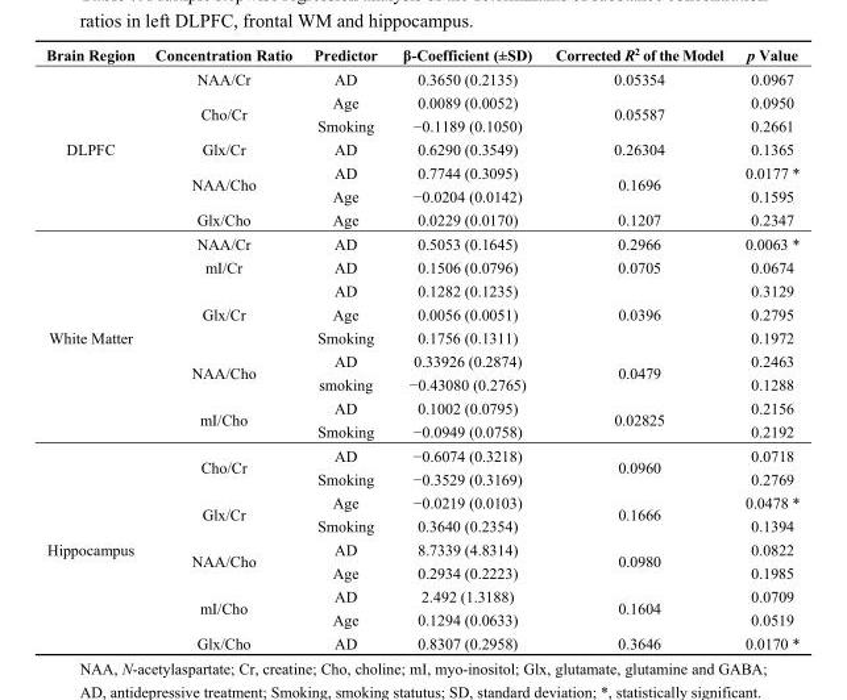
<table><thead><tr><td>Brain Region</td><td>Concentration Ratio</td><td>Predictor</td><td>β-Coefficient (±SD)</td><td>Corrected R<sup>2</sup> of the Model</td><td>p Value</td></tr></thead><tbody><tr><td rowspan="7">DLPFC</td><td>NAA/Cr</td><td>AD</td><td>0.3650 (0.2135)</td><td>0.05354</td><td>0.0967</td></tr><tr><td rowspan="2">Cho/Cr</td><td>Age</td><td>0.0089 (0.0052)</td><td rowspan="2">0.05587</td><td>0.0950</td></tr><tr><td>Smoking</td><td>−0.1189 (0.1050)</td><td>0.2661</td></tr><tr><td>Glx/Cr</td><td>AD</td><td>0.6290 (0.3549)</td><td>0.26304</td><td>0.1365</td></tr><tr><td rowspan="2">NAA/Cho</td><td>AD</td><td>0.7744 (0.3095)</td><td rowspan="2">0.1696</td><td>0.0177 *</td></tr><tr><td>Age</td><td>−0.0204 (0.0142)</td><td>0.1595</td></tr><tr><td>Glx/Cho</td><td>Age</td><td>0.0229 (0.0170)</td><td>0.1207</td><td>0.2347</td></tr><tr><td rowspan="9">White Matter</td><td>NAA/Cr</td><td>AD</td><td>0.5053 (0.1645)</td><td>0.2966</td><td>0.0063 *</td></tr><tr><td>mI/Cr</td><td>AD</td><td>0.1506 (0.0796)</td><td>0.0705</td><td>0.0674</td></tr><tr><td rowspan="3">Glx/Cr</td><td>AD</td><td>0.1282 (0.1235)</td><td rowspan="3">0.0396</td><td>0.3129</td></tr><tr><td>Age</td><td>0.0056 (0.0051)</td><td>0.2795</td></tr><tr><td>Smoking</td><td>0.1756 (0.1311)</td><td>0.1972</td></tr><tr><td rowspan="2">NAA/Cho</td><td>AD</td><td>0.33926 (0.2874)</td><td rowspan="2">0.0479</td><td>0.2463</td></tr><tr><td>smoking</td><td>−0.43080 (0.2765)</td><td>0.1288</td></tr><tr><td rowspan="2">mI/Cho</td><td>AD</td><td>0.1002 (0.0795)</td><td rowspan="2">0.02825</td><td>0.2156</td></tr><tr><td>Smoking</td><td>−0.0949 (0.0758)</td><td>0.2192</td></tr><tr><td rowspan="9">Hippocampus</td><td rowspan="2">Cho/Cr</td><td>AD</td><td>−0.6074 (0.3218)</td><td rowspan="2">0.0960</td><td>0.0718</td></tr><tr><td>Smoking</td><td>−0.3529 (0.3169)</td><td>0.2769</td></tr><tr><td rowspan="2">Glx/Cr</td><td>Age</td><td>−0.0219 (0.0103)</td><td rowspan="2">0.1666</td><td>0.0478 *</td></tr><tr><td>Smoking</td><td>0.3640 (0.2354)</td><td>0.1394</td></tr><tr><td rowspan="2">NAA/Cho</td><td>AD</td><td>8.7339 (4.8314)</td><td rowspan="2">0.0980</td><td>0.0822</td></tr><tr><td>Age</td><td>0.2934 (0.2223)</td><td>0.1985</td></tr><tr><td rowspan="2">mI/Cho</td><td>AD</td><td>2.492 (1.3188)</td><td rowspan="2">0.1604</td><td>0.0709</td></tr><tr><td>Age</td><td>0.1294 (0.0633)</td><td>0.0519</td></tr><tr><td>Glx/Cho</td><td>AD</td><td>0.8307 (0.2958)</td><td>0.3646</td><td>0.0170 *</td></tr></tbody></table>